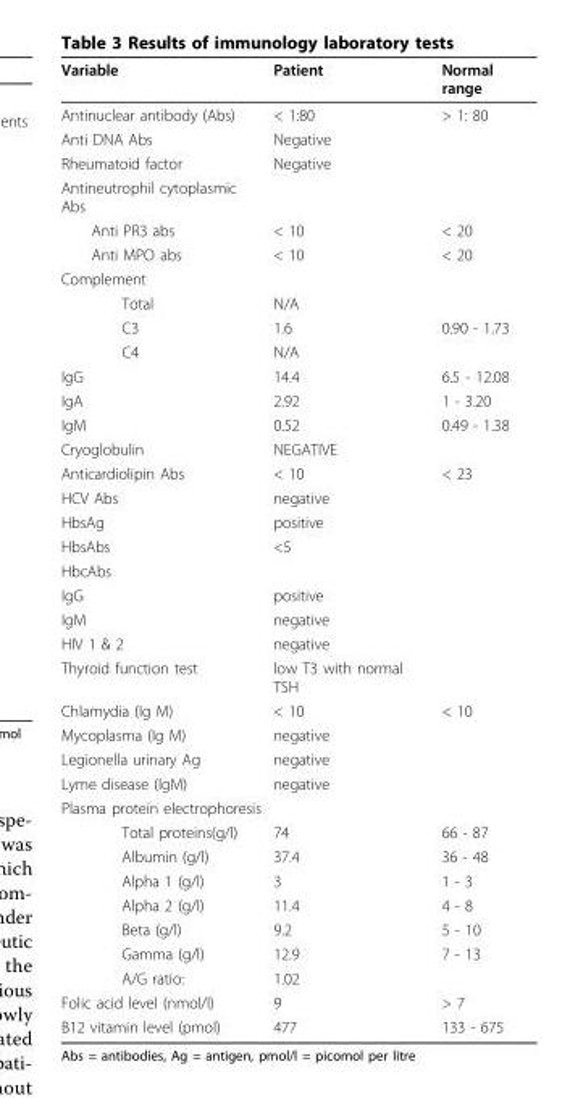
<table><thead><tr><td>Variable</td><td>Patient</td><td>Normal range</td></tr></thead><tbody><tr><td>Antinuclear antibody (Abs)</td><td>&lt; 1:80</td><td>&gt; 1: 80</td></tr><tr><td>Anti DNA Abs</td><td>Negative</td><td></td></tr><tr><td>Rheumatoid factor</td><td>Negative</td><td></td></tr><tr><td colspan="3">Antineutrophil cytoplasmic Abs</td></tr><tr><td>Anti PR3 abs</td><td>&lt; 10</td><td>&lt; 20</td></tr><tr><td>Anti MPO abs</td><td>&lt; 10</td><td>&lt; 20</td></tr><tr><td colspan="3">Complement</td></tr><tr><td>Total</td><td>N/A</td><td></td></tr><tr><td>C3</td><td>1.6</td><td>0.90 - 1.73</td></tr><tr><td>C4</td><td>N/A</td><td></td></tr><tr><td>IgG</td><td>14.4</td><td>6.5 - 12.08</td></tr><tr><td>IgA</td><td>2.92</td><td>1 - 3.20</td></tr><tr><td>IgM</td><td>0.52</td><td>0.49 - 1.38</td></tr><tr><td>Cryoglobulin</td><td>NEGATIVE</td><td></td></tr><tr><td>Anticardiolipin Abs</td><td>&lt; 10</td><td>&lt; 23</td></tr><tr><td>HCV Abs</td><td>negative</td><td></td></tr><tr><td>HbsAg</td><td>positive</td><td></td></tr><tr><td>HbsAbs</td><td>&lt;5</td><td></td></tr><tr><td colspan="3">HbcAbs</td></tr><tr><td>IgG</td><td>positive</td><td></td></tr><tr><td>IgM</td><td>negative</td><td></td></tr><tr><td>HIV 1 &amp; 2</td><td>negative</td><td></td></tr><tr><td>Thyroid function test</td><td>low T3 with normal TSH</td><td></td></tr><tr><td>Chlamydia (Ig M)</td><td>&lt; 10</td><td>&lt; 10</td></tr><tr><td>Mycoplasma (Ig M)</td><td>negative</td><td></td></tr><tr><td>Legionella urinary Ag</td><td>negative</td><td></td></tr><tr><td>Lyme disease (IgM)</td><td>negative</td><td></td></tr><tr><td colspan="3">Plasma protein electrophoresis</td></tr><tr><td>Total proteins(g/l)</td><td>74</td><td>66 - 87</td></tr><tr><td>Albumin (g/l)</td><td>37.4</td><td>36 - 48</td></tr><tr><td>Alpha 1 (g/l)</td><td>3</td><td>1 - 3</td></tr><tr><td>Alpha 2 (g/l)</td><td>11.4</td><td>4 - 8</td></tr><tr><td>Beta (g/l)</td><td>9.2</td><td>5 - 10</td></tr><tr><td>Gamma (g/l)</td><td>12.9</td><td>7 - 13</td></tr><tr><td>A/G ratio:</td><td>1.02</td><td></td></tr><tr><td>Folic acid level (nmol/l)</td><td>9</td><td>&gt; 7</td></tr><tr><td>B12 vitamin level (pmol)</td><td>477</td><td>133 - 675</td></tr></tbody></table>